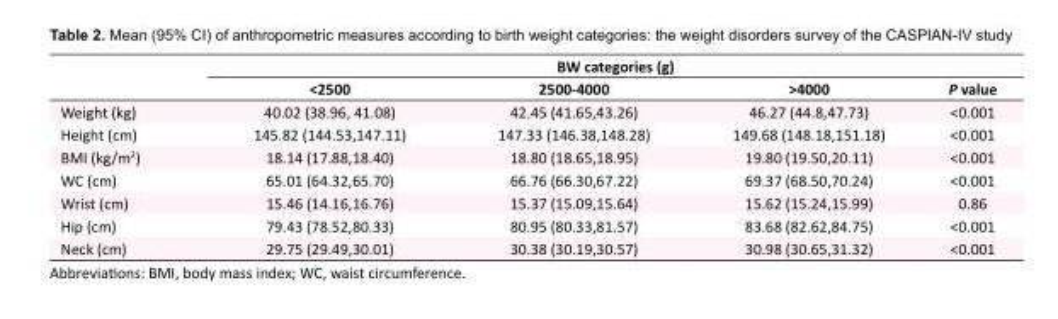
<table><thead><tr><td rowspan="2"></td><td colspan="4">BW categories (g)</td></tr><tr><td>&lt;2500</td><td>2500-4000</td><td>&gt;4000</td><td>P value</td></tr></thead><tbody><tr><td>Weight (kg)</td><td>40.02 (38.96, 41.08)</td><td>42.45 (41.65,43.26)</td><td>46.27 (44.8,47.73)</td><td>&lt;0.001</td></tr><tr><td>Height (cm)</td><td>145.82 (144.53,147.11)</td><td>147.33 (146.38,148.28)</td><td>149.68 (148.18,151.18)</td><td>&lt;0.001</td></tr><tr><td>BMI (kg/m<sup>2</sup>)</td><td>18.14 (17.88,18.40)</td><td>18.80 (18.65,18.95)</td><td>19.80 (19.50,20.11)</td><td>&lt;0.001</td></tr><tr><td>WC (cm)</td><td>65.01 (64.32,65.70)</td><td>66.76 (66.30,67.22)</td><td>69.37 (68.50,70.24)</td><td>&lt;0.001</td></tr><tr><td>Wrist (cm)</td><td>15.46 (14.16,16.76)</td><td>15.37 (15.09,15.64)</td><td>15.62 (15.24,15.99)</td><td>0.86</td></tr><tr><td>Hip (cm)</td><td>79.43 (78.52,80.33)</td><td>80.95 (80.33,81.57)</td><td>83.68 (82.62,84.75)</td><td>&lt;0.001</td></tr><tr><td>Neck (cm)</td><td>29.75 (29.49,30.01)</td><td>30.38 (30.19,30.57)</td><td>30.98 (30.65,31.32)</td><td>&lt;0.001</td></tr></tbody></table>